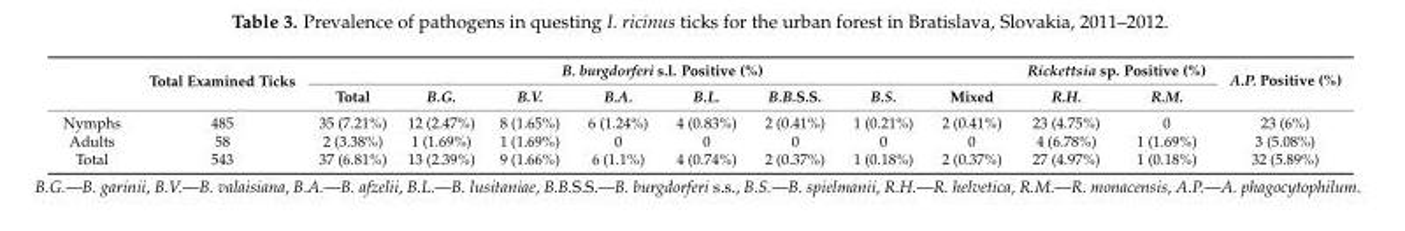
<table><thead><tr><td rowspan="2"></td><td rowspan="2">Total Examined Ticks</td><td colspan="8">B. burgdorferi s.l. Positive (%)</td><td colspan="2">Rickettsia sp. Positive (%)</td><td rowspan="2">A.P. Positive (%)</td></tr><tr><td>Total</td><td>B.G.</td><td>B.V.</td><td>B.A.</td><td>B.L.</td><td>B.B.S.S.</td><td>B.S.</td><td>Mixed</td><td>R.H.</td><td>R.M.</td></tr></thead><tbody><tr><td>Nymphs</td><td>485</td><td>35 (7.21%)</td><td>12 (2.47%)</td><td>8 (1.65%)</td><td>6 (1.24%)</td><td>4 (0.83%)</td><td>2 (0.41%)</td><td>1 (0.21%)</td><td>2 (0.41%)</td><td>23 (4.75%)</td><td>0</td><td>23 (6%)</td></tr><tr><td>Adults</td><td>58</td><td>2 (3.38%)</td><td>1 (1.69%)</td><td>1 (1.69%)</td><td>0</td><td>0</td><td>0</td><td>0</td><td>0</td><td>4 (6.78%)</td><td>1 (1.69%)</td><td>3 (5.08%)</td></tr><tr><td>Total</td><td>543</td><td>37 (6.81%)</td><td>13 (2.39%)</td><td>9 (1.66%)</td><td>6 (1.1%)</td><td>4 (0.74%)</td><td>2 (0.37%)</td><td>1 (0.18%)</td><td>2 (0.37%)</td><td>27 (4.97%)</td><td>1 (0.18%)</td><td>32 (5.89%)</td></tr></tbody></table>